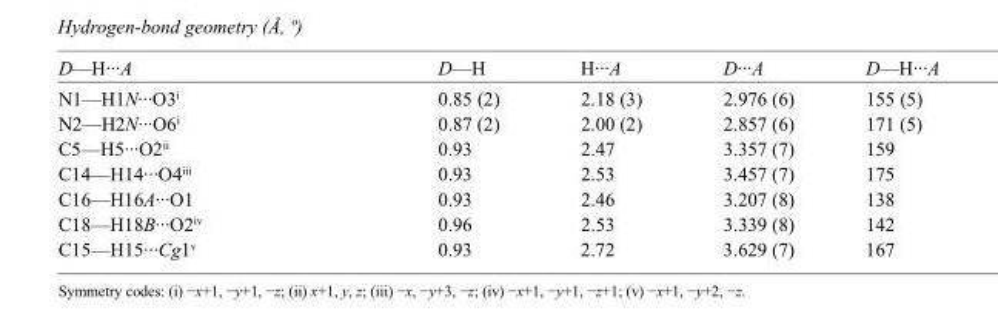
<table><tbody><tr><td>D—H···A</td><td>D—H</td><td>H···A</td><td>D···A</td><td>D—H···A</td></tr><tr><td>N1—H1N···O3<sup>i</sup></td><td>0.85 (2)</td><td>2.18 (3)</td><td>2.976 (6)</td><td>155 (5)</td></tr><tr><td>N2—H2N···O6<sup>i</sup></td><td>0.87 (2)</td><td>2.00 (2)</td><td>2.857 (6)</td><td>171 (5)</td></tr><tr><td>C5—H5···O2<sup>ii</sup></td><td>0.93</td><td>2.47</td><td>3.357 (7)</td><td>159</td></tr><tr><td>C14—H14···O4<sup>iii</sup></td><td>0.93</td><td>2.53</td><td>3.457 (7)</td><td>175</td></tr><tr><td>C16—H16A···O1</td><td>0.93</td><td>2.46</td><td>3.207 (8)</td><td>138</td></tr><tr><td>C18—H18B···O2<sup>iv</sup></td><td>0.96</td><td>2.53</td><td>3.339 (8)</td><td>142</td></tr><tr><td>C15—H15···Cg1<sup>v</sup></td><td>0.93</td><td>2.72</td><td>3.629 (7)</td><td>167</td></tr></tbody></table>